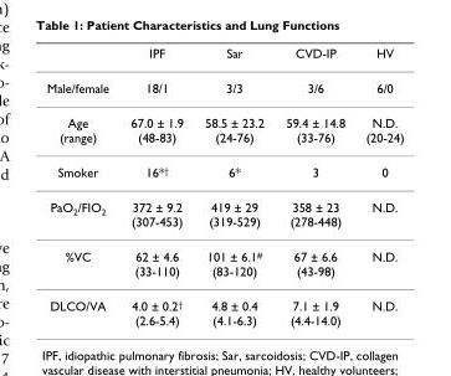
<table><thead><tr><td></td><td>IPF</td><td>Sar</td><td>CVD-IP</td><td>HV</td></tr></thead><tbody><tr><td>Male/female</td><td>18/1</td><td>3/3</td><td>3/6</td><td>6/0</td></tr><tr><td>Age (range)</td><td>67.0 ± 1.9 (48-83)</td><td>58.5 ± 23.2 (24-76)</td><td>59.4 ± 14.8 (33-76)</td><td>N.D. (20-24)</td></tr><tr><td>Smoker</td><td>16*<sup>†</sup></td><td>6*</td><td>3</td><td>0</td></tr><tr><td>PaO<sub>2</sub>/FIO<sub>2</sub></td><td>372 ± 9.2 (307-453)</td><td>419 ± 29 (319-529)</td><td>358 ± 23 (278-448)</td><td>N.D.</td></tr><tr><td>%VC</td><td>62 ± 4.6 (33-110)</td><td>101 ± 6.1<sup>#</sup> (83-120)</td><td>67 ± 6.6 (43-98)</td><td>N.D.</td></tr><tr><td>DLCO/VA</td><td>4.0 ± 0.2<sup>†</sup> (2.6-5.4)</td><td>4.8 ± 0.4 (4.1-6.3)</td><td>7.1 ± 1.9 (4.4-14.0)</td><td>N.D.</td></tr></tbody></table>